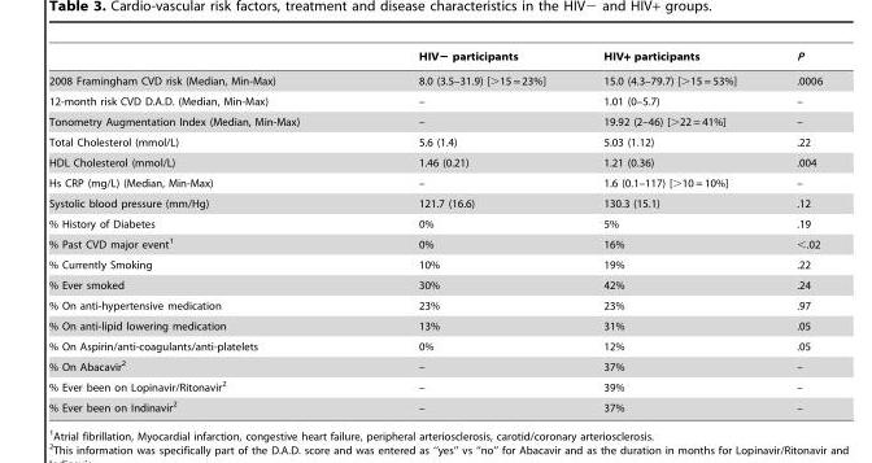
<table><thead><tr><td></td><td>HIV− participants</td><td>HIV+ participants</td><td>P</td></tr></thead><tbody><tr><td>2008 Framingham CVD risk (Median, Min-Max)</td><td>8.0 (3.5–31.9) [&gt;15 = 23%]</td><td>15.0 (4.3–79.7) [&gt;15 = 53%]</td><td>.0006</td></tr><tr><td>12-month risk CVD D.A.D. (Median, Min-Max)</td><td>–</td><td>1.01 (0–5.7)</td><td>–</td></tr><tr><td>Tonometry Augmentation Index (Median, Min-Max)</td><td>–</td><td>19.92 (2–46) [&gt;22 = 41%]</td><td>–</td></tr><tr><td>Total Cholesterol (mmol/L)</td><td>5.6 (1.4)</td><td>5.03 (1.12)</td><td>.22</td></tr><tr><td>HDL Cholesterol (mmol/L)</td><td>1.46 (0.21)</td><td>1.21 (0.36)</td><td>.004</td></tr><tr><td>Hs CRP (mg/L) (Median, Min-Max)</td><td>–</td><td>1.6 (0.1–117) [&gt;10 = 10%]</td><td>–</td></tr><tr><td>Systolic blood pressure (mm/Hg)</td><td>121.7 (16.6)</td><td>130.3 (15.1)</td><td>.12</td></tr><tr><td>% History of Diabetes</td><td>0%</td><td>5%</td><td>.19</td></tr><tr><td>% Past CVD major event<sup>1</sup></td><td>0%</td><td>16%</td><td>&lt;.02</td></tr><tr><td>% Currently Smoking</td><td>10%</td><td>19%</td><td>.22</td></tr><tr><td>% Ever smoked</td><td>30%</td><td>42%</td><td>.24</td></tr><tr><td>% On anti-hypertensive medication</td><td>23%</td><td>23%</td><td>.97</td></tr><tr><td>% On anti-lipid lowering medication</td><td>13%</td><td>31%</td><td>.05</td></tr><tr><td>% On Aspirin/anti-coagulants/anti-platelets</td><td>0%</td><td>12%</td><td>.05</td></tr><tr><td>% On Abacavir<sup>2</sup></td><td>–</td><td>37%</td><td>–</td></tr><tr><td>% Ever been on Lopinavir/Ritonavir<sup>2</sup></td><td>–</td><td>39%</td><td>–</td></tr><tr><td>% Ever been on Indinavir<sup>2</sup></td><td>–</td><td>37%</td><td>–</td></tr></tbody></table>